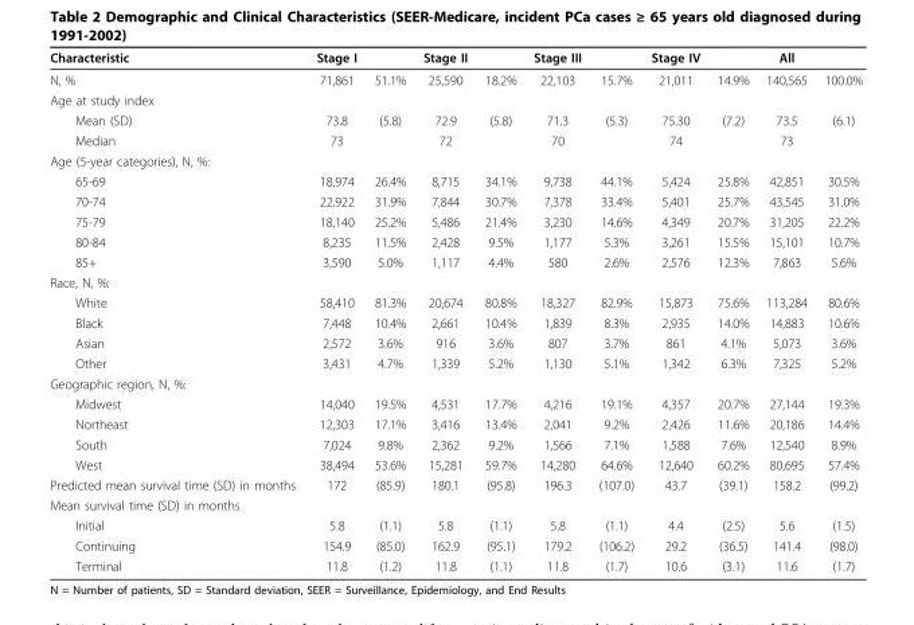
<table><thead><tr><td>Characteristic</td><td>Stage I</td><td></td><td>Stage II</td><td></td><td>Stage III</td><td></td><td>Stage IV</td><td></td><td>All</td><td></td></tr></thead><tbody><tr><td>N, %</td><td>71,861</td><td>51.1%</td><td>25,590</td><td>18.2%</td><td>22,103</td><td>15.7%</td><td>21,011</td><td>14.9%</td><td>140,565</td><td>100.0%</td></tr><tr><td colspan="11">Age at study index</td></tr><tr><td>Mean (SD)</td><td>73.8</td><td>(5.8)</td><td>72.9</td><td>(5.8)</td><td>71.3</td><td>(5.3)</td><td>75.30</td><td>(7.2)</td><td>73.5</td><td>(6.1)</td></tr><tr><td>Median</td><td>73</td><td></td><td>72</td><td></td><td>70</td><td></td><td>74</td><td></td><td>73</td><td></td></tr><tr><td colspan="11">Age (5-year categories), N, %:</td></tr><tr><td>65-69</td><td>18,974</td><td>26.4%</td><td>8,715</td><td>34.1%</td><td>9,738</td><td>44.1%</td><td>5,424</td><td>25.8%</td><td>42,851</td><td>30.5%</td></tr><tr><td>70-74</td><td>22,922</td><td>31.9%</td><td>7,844</td><td>30.7%</td><td>7,378</td><td>33.4%</td><td>5,401</td><td>25.7%</td><td>43,545</td><td>31.0%</td></tr><tr><td>75-79</td><td>18,140</td><td>25.2%</td><td>5,486</td><td>21.4%</td><td>3,230</td><td>14.6%</td><td>4,349</td><td>20.7%</td><td>31,205</td><td>22.2%</td></tr><tr><td>80-84</td><td>8,235</td><td>11.5%</td><td>2,428</td><td>9.5%</td><td>1,177</td><td>5.3%</td><td>3,261</td><td>15.5%</td><td>15,101</td><td>10.7%</td></tr><tr><td>85+</td><td>3,590</td><td>5.0%</td><td>1,117</td><td>4.4%</td><td>580</td><td>2.6%</td><td>2,576</td><td>12.3%</td><td>7,863</td><td>5.6%</td></tr><tr><td colspan="11">Race, N, %:</td></tr><tr><td>White</td><td>58,410</td><td>81.3%</td><td>20,674</td><td>80.8%</td><td>18,327</td><td>82.9%</td><td>15,873</td><td>75.6%</td><td>113,284</td><td>80.6%</td></tr><tr><td>Black</td><td>7,448</td><td>10.4%</td><td>2,661</td><td>10.4%</td><td>1,839</td><td>8.3%</td><td>2,935</td><td>14.0%</td><td>14,883</td><td>10.6%</td></tr><tr><td>Asian</td><td>2,572</td><td>3.6%</td><td>916</td><td>3.6%</td><td>807</td><td>3.7%</td><td>861</td><td>4.1%</td><td>5,073</td><td>3.6%</td></tr><tr><td>Other</td><td>3,431</td><td>4.7%</td><td>1,339</td><td>5.2%</td><td>1,130</td><td>5.1%</td><td>1,342</td><td>6.3%</td><td>7,325</td><td>5.2%</td></tr><tr><td colspan="11">Geographic region, N, %:</td></tr><tr><td>Midwest</td><td>14,040</td><td>19.5%</td><td>4,531</td><td>17.7%</td><td>4,216</td><td>19.1%</td><td>4,357</td><td>20.7%</td><td>27,144</td><td>19.3%</td></tr><tr><td>Northeast</td><td>12,303</td><td>17.1%</td><td>3,416</td><td>13.4%</td><td>2,041</td><td>9.2%</td><td>2,426</td><td>11.6%</td><td>20,186</td><td>14.4%</td></tr><tr><td>South</td><td>7,024</td><td>9.8%</td><td>2,362</td><td>9.2%</td><td>1,566</td><td>7.1%</td><td>1,588</td><td>7.6%</td><td>12,540</td><td>8.9%</td></tr><tr><td>West</td><td>38,494</td><td>53.6%</td><td>15,281</td><td>59.7%</td><td>14,280</td><td>64.6%</td><td>12,640</td><td>60.2%</td><td>80,695</td><td>57.4%</td></tr><tr><td>Predicted mean survival time (SD) in months</td><td>172</td><td>(85.9)</td><td>180.1</td><td>(95.8)</td><td>196.3</td><td>(107.0)</td><td>43.7</td><td>(39.1)</td><td>158.2</td><td>(99.2)</td></tr><tr><td colspan="11">Mean survival time (SD) in months</td></tr><tr><td>Initial</td><td>5.8</td><td>(1.1)</td><td>5.8</td><td>(1.1)</td><td>5.8</td><td>(1.1)</td><td>4.4</td><td>(2.5)</td><td>5.6</td><td>(1.5)</td></tr><tr><td>Continuing</td><td>154.9</td><td>(85.0)</td><td>162.9</td><td>(95.1)</td><td>179.2</td><td>(106.2)</td><td>29.2</td><td>(36.5)</td><td>141.4</td><td>(98.0)</td></tr><tr><td>Terminal</td><td>11.8</td><td>(1.2)</td><td>11.8</td><td>(1.1)</td><td>11.8</td><td>(1.7)</td><td>10.6</td><td>(3.1)</td><td>11.6</td><td>(1.7)</td></tr></tbody></table>